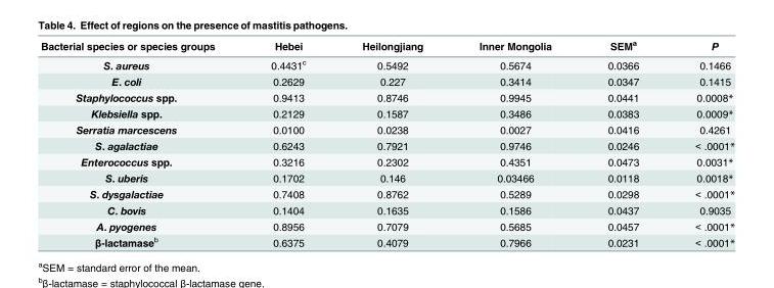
<table><thead><tr><td>Bacterial species or species groups</td><td>Hebei</td><td>Heilongjiang</td><td>Inner Mongolia</td><td>SEM<sup>a</sup></td><td>P</td></tr></thead><tbody><tr><td>S. aureus</td><td>0.4431<sup>c</sup></td><td>0.5492</td><td>0.5674</td><td>0.0366</td><td>0.1466</td></tr><tr><td>E. coli</td><td>0.2629</td><td>0.227</td><td>0.3414</td><td>0.0347</td><td>0.1415</td></tr><tr><td>Staphylococcus spp.</td><td>0.9413</td><td>0.8746</td><td>0.9945</td><td>0.0441</td><td>0.0008*</td></tr><tr><td>Klebsiella spp.</td><td>0.2129</td><td>0.1587</td><td>0.3486</td><td>0.0383</td><td>0.0009*</td></tr><tr><td>Serratia marcescens</td><td>0.0100</td><td>0.0238</td><td>0.0027</td><td>0.0416</td><td>0.4261</td></tr><tr><td>S. agalactiae</td><td>0.6243</td><td>0.7921</td><td>0.9746</td><td>0.0246</td><td>&lt; .0001*</td></tr><tr><td>Enterococcus spp.</td><td>0.3216</td><td>0.2302</td><td>0.4351</td><td>0.0473</td><td>0.0031*</td></tr><tr><td>S. uberis</td><td>0.1702</td><td>0.146</td><td>0.03466</td><td>0.0118</td><td>0.0018*</td></tr><tr><td>S. dysgalactiae</td><td>0.7408</td><td>0.8762</td><td>0.5289</td><td>0.0298</td><td>&lt; .0001*</td></tr><tr><td>C. bovis</td><td>0.1404</td><td>0.1635</td><td>0.1586</td><td>0.0437</td><td>0.9035</td></tr><tr><td>A. pyogenes</td><td>0.8956</td><td>0.7079</td><td>0.5685</td><td>0.0457</td><td>&lt; .0001*</td></tr><tr><td>β-lactamase<sup>b</sup></td><td>0.6375</td><td>0.4079</td><td>0.7966</td><td>0.0231</td><td>&lt; .0001*</td></tr></tbody></table>